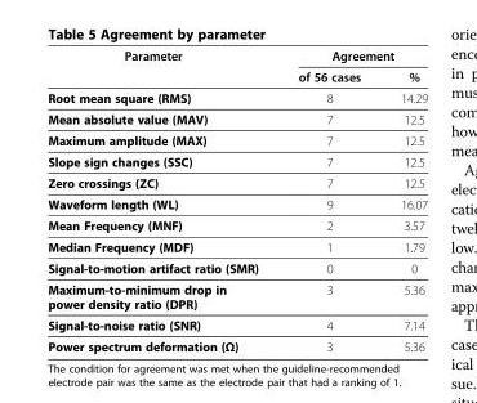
<table><thead><tr><td rowspan="2">Parameter</td><td colspan="2">Agreement</td></tr><tr><td>of 56 cases</td><td>%</td></tr></thead><tbody><tr><td>Root mean square (RMS)</td><td>8</td><td>14.29</td></tr><tr><td>Mean absolute value (MAV)</td><td>7</td><td>12.5</td></tr><tr><td>Maximum amplitude (MAX)</td><td>7</td><td>12.5</td></tr><tr><td>Slope sign changes (SSC)</td><td>7</td><td>12.5</td></tr><tr><td>Zero crossings (ZC)</td><td>7</td><td>12.5</td></tr><tr><td>Waveform length (WL)</td><td>9</td><td>16.07</td></tr><tr><td>Mean Frequency (MNF)</td><td>2</td><td>3.57</td></tr><tr><td>Median Frequency (MDF)</td><td>1</td><td>1.79</td></tr><tr><td>Signal-to-motion artifact ratio (SMR)</td><td>0</td><td>0</td></tr><tr><td>Maximum-to-minimum drop in power density ratio (DPR)</td><td>3</td><td>5.36</td></tr><tr><td>Signal-to-noise ratio (SNR)</td><td>4</td><td>7.14</td></tr><tr><td>Power spectrum deformation (Ω)</td><td>3</td><td>5.36</td></tr></tbody></table>